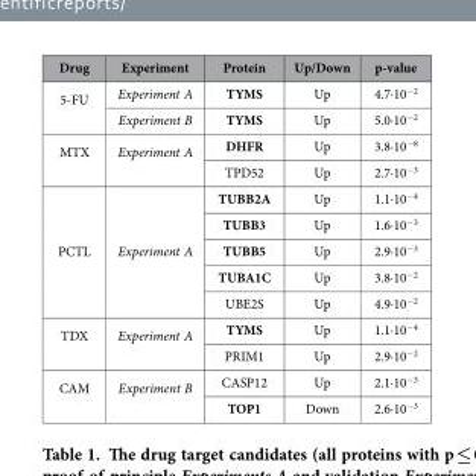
<table><thead><tr><td>Drug</td><td>Experiment</td><td>Protein</td><td>Up/Down</td><td>p-value</td></tr></thead><tbody><tr><td rowspan="2">5-FU</td><td>Experiment A</td><td>TYMS</td><td>Up</td><td>4.7·10<sup>−2</sup></td></tr><tr><td>Experiment B</td><td>TYMS</td><td>Up</td><td>5.0·10<sup>−2</sup></td></tr><tr><td rowspan="2">MTX</td><td rowspan="2">Experiment A</td><td>DHFR</td><td>Up</td><td>3.8·10<sup>−8</sup></td></tr><tr><td>TPD52</td><td>Up</td><td>2.7·10<sup>−3</sup></td></tr><tr><td rowspan="5">PCTL</td><td rowspan="5">Experiment A</td><td>TUBB2A</td><td>Up</td><td>1.1·10<sup>−4</sup></td></tr><tr><td>TUBB3</td><td>Up</td><td>1.6·10<sup>−3</sup></td></tr><tr><td>TUBB5</td><td>Up</td><td>2.9·10<sup>−3</sup></td></tr><tr><td>TUBA1C</td><td>Up</td><td>3.8·10<sup>−2</sup></td></tr><tr><td>UBE2S</td><td>Up</td><td>4.9·10<sup>−2</sup></td></tr><tr><td rowspan="2">TDX</td><td rowspan="2">Experiment A</td><td>TYMS</td><td>Up</td><td>1.1·10<sup>−4</sup></td></tr><tr><td>PRIM1</td><td>Up</td><td>2.9·10<sup>−2</sup></td></tr><tr><td rowspan="2">CAM</td><td rowspan="2">Experiment B</td><td>CASP12</td><td>Up</td><td>2.1·10<sup>−3</sup></td></tr><tr><td>TOP1</td><td>Down</td><td>2.6·10<sup>−3</sup></td></tr></tbody></table>